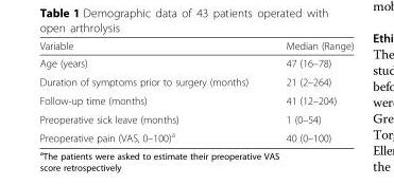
<table><thead><tr><td>Variable</td><td>Median (Range)</td></tr></thead><tbody><tr><td>Age (years)</td><td>47 (16–78)</td></tr><tr><td>Duration of symptoms prior to surgery (months)</td><td>21 (2–264)</td></tr><tr><td>Follow-up time (months)</td><td>41 (12–204)</td></tr><tr><td>Preoperative sick leave (months)</td><td>1 (0–54)</td></tr><tr><td>Preoperative pain (VAS, 0–100)<sup>a</sup></td><td>40 (0–100)</td></tr></tbody></table>